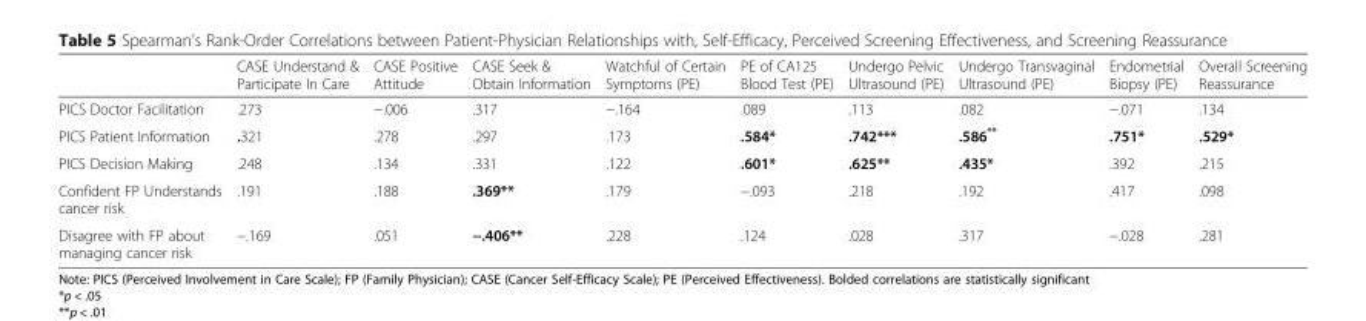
<table><thead><tr><td></td><td>CASE Understand &amp; Participate In Care</td><td>CASE Positive Attitude</td><td>CASE Seek &amp; Obtain Information</td><td>Watchful of Certain Symptoms (PE)</td><td>PE of CA125 Blood Test (PE)</td><td>Undergo Pelvic Ultrasound (PE)</td><td>Undergo Transvaginal Ultrasound (PE)</td><td>Endometrial Biopsy (PE)</td><td>Overall Screening Reassurance</td></tr></thead><tbody><tr><td>PICS Doctor Facilitation</td><td>.273</td><td>−.006</td><td>.317</td><td>−.164</td><td>.089</td><td>.113</td><td>.082</td><td>−.071</td><td>.134</td></tr><tr><td>PICS Patient Information</td><td>.321</td><td>.278</td><td>.297</td><td>.173</td><td>.584*</td><td>.742***</td><td>.586**</td><td>.751*</td><td>.529*</td></tr><tr><td>PICS Decision Making</td><td>.248</td><td>.134</td><td>.331</td><td>.122</td><td>.601*</td><td>.625**</td><td>.435*</td><td>.392</td><td>.215</td></tr><tr><td>Confident FP Understands cancer risk</td><td>.191</td><td>.188</td><td>.369**</td><td>.179</td><td>−.093</td><td>.218</td><td>.192</td><td>.417</td><td>.098</td></tr><tr><td>Disagree with FP about managing cancer risk</td><td>−.169</td><td>.051</td><td>−.406**</td><td>.228</td><td>.124</td><td>.028</td><td>.317</td><td>−.028</td><td>.281</td></tr></tbody></table>